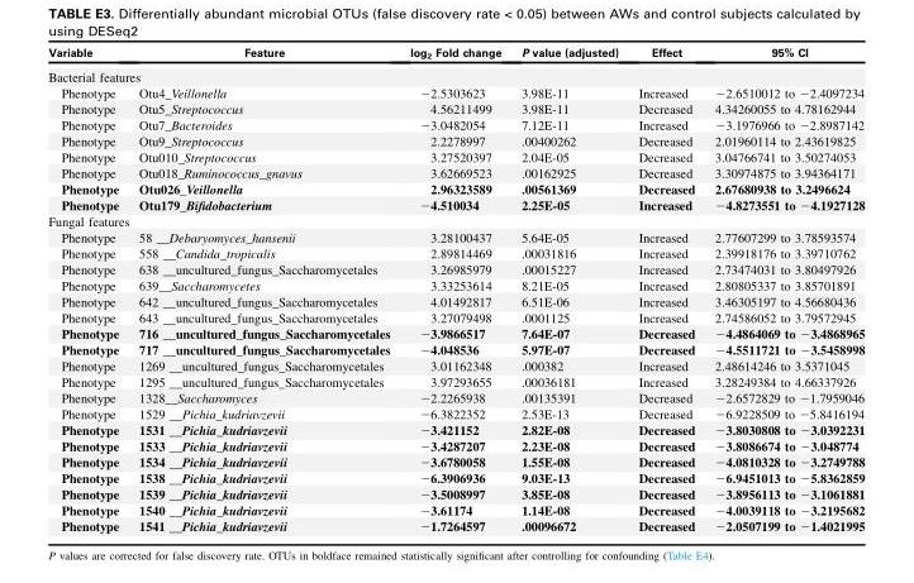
<table><thead><tr><td>Variable</td><td>Feature</td><td>log2 Fold change</td><td>P value (adjusted)</td><td>Effect</td><td>95% CI</td></tr></thead><tbody><tr><td colspan="6">Bacterial features</td></tr><tr><td>Phenotype</td><td>Otu4_Veillonella</td><td>−2.5303623</td><td>3.98E-11</td><td>Increased</td><td>−2.6510012 to −2.4097234</td></tr><tr><td>Phenotype</td><td>Otu5_Streptococcus</td><td>4.56211499</td><td>3.98E-11</td><td>Decreased</td><td>4.34260055 to 4.78162944</td></tr><tr><td>Phenotype</td><td>Otu7_Bacteroides</td><td>−3.0482054</td><td>7.12E-11</td><td>Increased</td><td>−3.1976966 to −2.8987142</td></tr><tr><td>Phenotype</td><td>Otu9_Streptococcus</td><td>2.2278997</td><td>.00400262</td><td>Decreased</td><td>2.01960114 to 2.43619825</td></tr><tr><td>Phenotype</td><td>Otu010_Streptococcus</td><td>3.27520397</td><td>2.04E-05</td><td>Decreased</td><td>3.04766741 to 3.50274053</td></tr><tr><td>Phenotype</td><td>Otu018_Ruminococcus_gnavus</td><td>3.62669523</td><td>.00162925</td><td>Decreased</td><td>3.30974875 to 3.94364171</td></tr><tr><td>Phenotype</td><td>Otu026_Veillonella</td><td>2.96323589</td><td>.00561369</td><td>Decreased</td><td>2.67680938 to 3.2496624</td></tr><tr><td>Phenotype</td><td>Otu179_Bifidobacterium</td><td>−4.510034</td><td>2.25E-05</td><td>Increased</td><td>−4.8273551 to −4.1927128</td></tr><tr><td colspan="6">Fungal features</td></tr><tr><td>Phenotype</td><td>58 __Debaryomyces_hansenii</td><td>3.28100437</td><td>5.64E-05</td><td>Increased</td><td>2.77607299 to 3.78593574</td></tr><tr><td>Phenotype</td><td>558 __Candida_tropicalis</td><td>2.89814469</td><td>.00031816</td><td>Increased</td><td>2.39918176 to 3.39710762</td></tr><tr><td>Phenotype</td><td>638 __uncultured_fungus_Saccharomycetales</td><td>3.26985979</td><td>.00015227</td><td>Increased</td><td>2.73474031 to 3.80497926</td></tr><tr><td>Phenotype</td><td>639__Saccharomycetes</td><td>3.33253614</td><td>8.21E-05</td><td>Increased</td><td>2.80805337 to 3.85701891</td></tr><tr><td>Phenotype</td><td>642 __uncultured_fungus_Saccharomycetales</td><td>4.01492817</td><td>6.51E-06</td><td>Increased</td><td>3.46305197 to 4.56680436</td></tr><tr><td>Phenotype</td><td>643 __uncultured_fungus_Saccharomycetales</td><td>3.27079498</td><td>.0001125</td><td>Increased</td><td>2.74586052 to 3.79572945</td></tr><tr><td>Phenotype</td><td>716 __uncultured_fungus_Saccharomycetales</td><td>−3.9866517</td><td>7.64E-07</td><td>Decreased</td><td>−4.4864069 to −3.4868965</td></tr><tr><td>Phenotype</td><td>717 __uncultured_fungus_Saccharomycetales</td><td>−4.048536</td><td>5.97E-07</td><td>Decreased</td><td>−4.5511721 to −3.5458998</td></tr><tr><td>Phenotype</td><td>1269 __uncultured_fungus_Saccharomycetales</td><td>3.01162348</td><td>.000382</td><td>Increased</td><td>2.48614246 to 3.5371045</td></tr><tr><td>Phenotype</td><td>1295 __uncultured_fungus_Saccharomycetales</td><td>3.97293655</td><td>.00036181</td><td>Increased</td><td>3.28249384 to 4.66337926</td></tr><tr><td>Phenotype</td><td>1328__Saccharomyces</td><td>−2.2265938</td><td>.00135391</td><td>Decreased</td><td>−2.6572829 to −1.7959046</td></tr><tr><td>Phenotype</td><td>1529 __Pichia_kudriavzevii</td><td>−6.3822352</td><td>2.53E-13</td><td>Decreased</td><td>−6.9228509 to −5.8416194</td></tr><tr><td>Phenotype</td><td>1531 __Pichia_kudriavzevii</td><td>−3.421152</td><td>2.82E-08</td><td>Decreased</td><td>−3.8030808 to −3.0392231</td></tr><tr><td>Phenotype</td><td>1533 __Pichia_kudriavzevii</td><td>−3.4287207</td><td>2.23E-08</td><td>Decreased</td><td>−3.8086674 to −3.048774</td></tr><tr><td>Phenotype</td><td>1534 __Pichia_kudriavzevii</td><td>−3.6780058</td><td>1.55E-08</td><td>Decreased</td><td>−4.0810328 to −3.2749788</td></tr><tr><td>Phenotype</td><td>1538 __Pichia_kudriavzevii</td><td>−6.3906936</td><td>9.03E-13</td><td>Decreased</td><td>−6.9451013 to −5.8362859</td></tr><tr><td>Phenotype</td><td>1539 __Pichia_kudriavzevii</td><td>−3.5008997</td><td>3.85E-08</td><td>Decreased</td><td>−3.8956113 to −3.1061881</td></tr><tr><td>Phenotype</td><td>1540 __Pichia_kudriavzevii</td><td>−3.61174</td><td>1.14E-08</td><td>Decreased</td><td>−4.0039118 to −3.2195682</td></tr><tr><td>Phenotype</td><td>1541 __Pichia_kudriavzevii</td><td>−1.7264597</td><td>.00096672</td><td>Decreased</td><td>−2.0507199 to −1.4021995</td></tr></tbody></table>